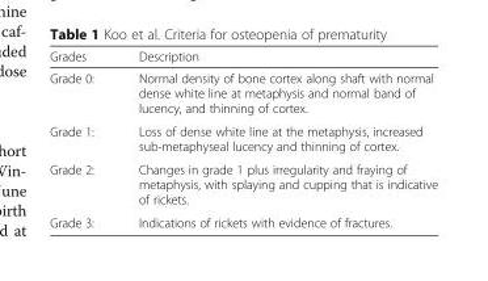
<table><thead><tr><td>Grades</td><td>Description</td></tr></thead><tbody><tr><td>Grade 0:</td><td>Normal density of bone cortex along shaft with normal dense white line at metaphysis and normal band of lucency, and thinning of cortex.</td></tr><tr><td>Grade 1:</td><td>Loss of dense white line at the metaphysis, increased sub-metaphyseal lucency and thinning of cortex.</td></tr><tr><td>Grade 2:</td><td>Changes in grade 1 plus irregularity and fraying of metaphysis, with splaying and cupping that is indicative of rickets.</td></tr><tr><td>Grade 3:</td><td>Indications of rickets with evidence of fractures.</td></tr></tbody></table>